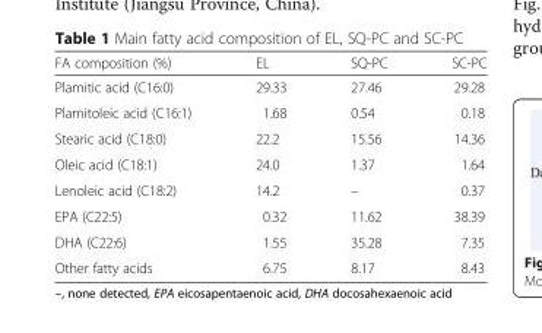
<table><thead><tr><td>FA composition (%)</td><td>EL</td><td>SQ-PC</td><td>SC-PC</td></tr></thead><tbody><tr><td>Plamitic acid (C16:0)</td><td>29.33</td><td>27.46</td><td>29.28</td></tr><tr><td>Plamitoleic acid (C16:1)</td><td>1.68</td><td>0.54</td><td>0.18</td></tr><tr><td>Stearic acid (C18:0)</td><td>22.2</td><td>15.56</td><td>14.36</td></tr><tr><td>Oleic acid (C18:1)</td><td>24.0</td><td>1.37</td><td>1.64</td></tr><tr><td>Lenoleic acid (C18:2)</td><td>14.2</td><td>–</td><td>0.37</td></tr><tr><td>EPA (C22:5)</td><td>0.32</td><td>11.62</td><td>38.39</td></tr><tr><td>DHA (C22:6)</td><td>1.55</td><td>35.28</td><td>7.35</td></tr><tr><td>Other fatty acids</td><td>6.75</td><td>8.17</td><td>8.43</td></tr></tbody></table>